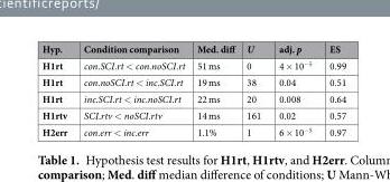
<table><thead><tr><td>Hyp.</td><td>Condition comparison</td><td>Med. diff</td><td>U</td><td>adj. p</td><td>ES</td></tr></thead><tbody><tr><td>H1rt</td><td>con.SCI.rt &lt; con.noSCI.rt</td><td>51 ms</td><td>0</td><td>4 × 10<sup>−5</sup></td><td>0.99</td></tr><tr><td>H1rt</td><td>con.noSCI.rt &lt; inc.SCI.rt</td><td>19 ms</td><td>38</td><td>0.04</td><td>0.51</td></tr><tr><td>H1rt</td><td>inc.SCI.rt &lt; inc.noSCI.rt</td><td>22 ms</td><td>20</td><td>0.008</td><td>0.64</td></tr><tr><td>H1rtv</td><td>SCI.rtv &lt; noSCI.rtv</td><td>14 ms</td><td>161</td><td>0.02</td><td>0.57</td></tr><tr><td>H2err</td><td>con.err &lt; inc.err</td><td>1.1%</td><td>1</td><td>6 × 10<sup>−5</sup></td><td>0.97</td></tr></tbody></table>